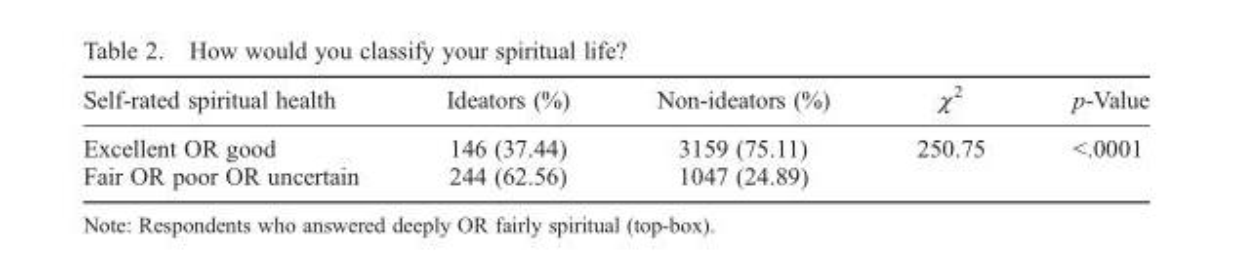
<table><thead><tr><td>Self-rated spiritual health</td><td>Ideators (%)</td><td>Non-ideators (%)</td><td>χ<sup>2</sup></td><td>p-Value</td></tr></thead><tbody><tr><td>Excellent OR good</td><td>146 (37.44)</td><td>3159 (75.11)</td><td rowspan="2">250.75</td><td rowspan="2">&lt;.0001</td></tr><tr><td>Fair OR poor OR uncertain</td><td>244 (62.56)</td><td>1047 (24.89)</td></tr></tbody></table>